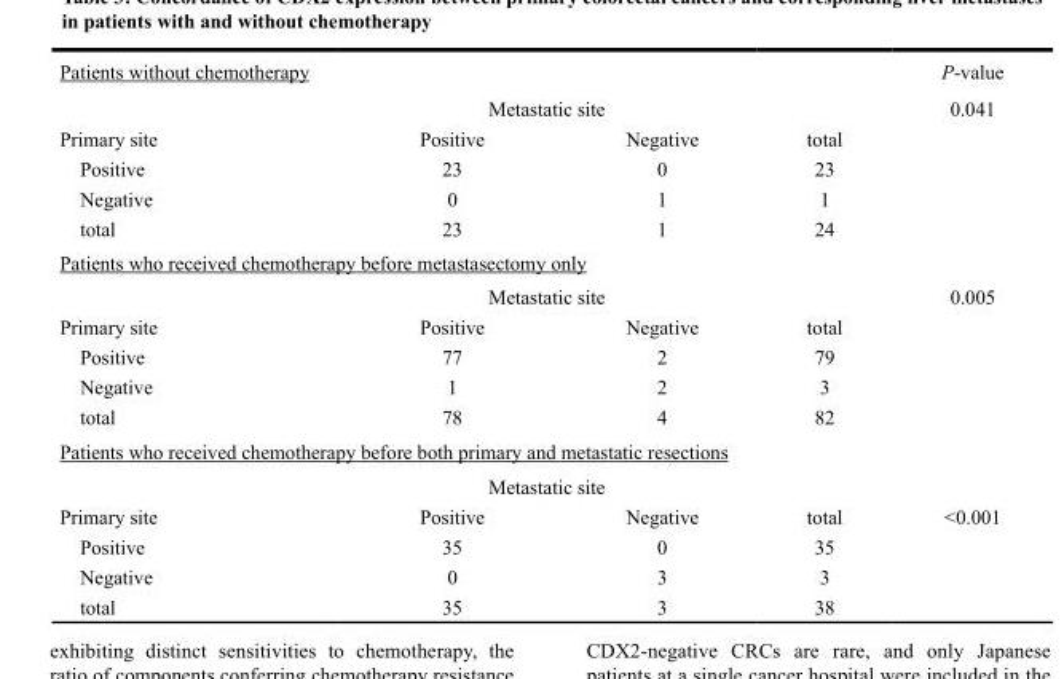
<table><tbody><tr><td colspan="4">Patients without chemotherapy</td><td>P-value</td></tr><tr><td></td><td colspan="2">Metastatic site</td><td></td><td>0.041</td></tr><tr><td>Primary site</td><td>Positive</td><td>Negative</td><td>total</td><td></td></tr><tr><td>Positive</td><td>23</td><td>0</td><td>23</td><td></td></tr><tr><td>Negative</td><td>0</td><td>1</td><td>1</td><td></td></tr><tr><td>total</td><td>23</td><td>1</td><td>24</td><td></td></tr><tr><td colspan="5">Patients who received chemotherapy before metastasectomy only</td></tr><tr><td></td><td colspan="2">Metastatic site</td><td></td><td>0.005</td></tr><tr><td>Primary site</td><td>Positive</td><td>Negative</td><td>total</td><td></td></tr><tr><td>Positive</td><td>77</td><td>2</td><td>79</td><td></td></tr><tr><td>Negative</td><td>1</td><td>2</td><td>3</td><td></td></tr><tr><td>total</td><td>78</td><td>4</td><td>82</td><td></td></tr><tr><td colspan="5">Patients who received chemotherapy before both primary and metastatic resections</td></tr><tr><td></td><td colspan="2">Metastatic site</td><td></td><td></td></tr><tr><td>Primary site</td><td>Positive</td><td>Negative</td><td>total</td><td>&lt;0.001</td></tr><tr><td>Positive</td><td>35</td><td>0</td><td>35</td><td></td></tr><tr><td>Negative</td><td>0</td><td>3</td><td>3</td><td></td></tr><tr><td>total</td><td>35</td><td>3</td><td>38</td><td></td></tr></tbody></table>